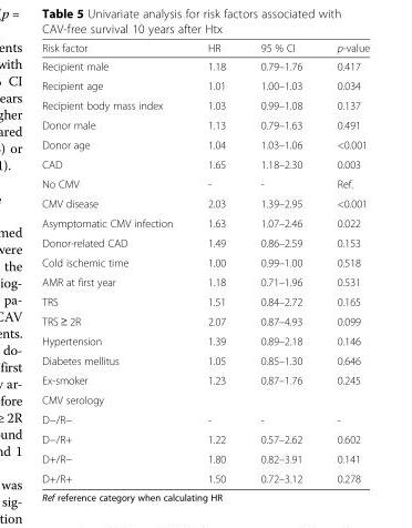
<table><thead><tr><td>Risk factor</td><td>HR</td><td>95 % CI</td><td>p-value</td></tr></thead><tbody><tr><td>Recipient male</td><td>1.18</td><td>0.79–1.76</td><td>0.417</td></tr><tr><td>Recipient age</td><td>1.01</td><td>1.00–1.03</td><td>0.034</td></tr><tr><td>Recipient body mass index</td><td>1.03</td><td>0.99–1.08</td><td>0.137</td></tr><tr><td>Donor male</td><td>1.13</td><td>0.79–1.63</td><td>0.491</td></tr><tr><td>Donor age</td><td>1.04</td><td>1.03–1.06</td><td>&lt;0.001</td></tr><tr><td>CAD</td><td>1.65</td><td>1.18–2.30</td><td>0.003</td></tr><tr><td>No CMV</td><td>-</td><td>-</td><td>Ref.</td></tr><tr><td>CMV disease</td><td>2.03</td><td>1.39–2.95</td><td>&lt;0.001</td></tr><tr><td>Asymptomatic CMV infection</td><td>1.63</td><td>1.07–2.46</td><td>0.022</td></tr><tr><td>Donor-related CAD</td><td>1.49</td><td>0.86–2.59</td><td>0.153</td></tr><tr><td>Cold ischemic time</td><td>1.00</td><td>0.99–1.00</td><td>0.518</td></tr><tr><td>AMR at first year</td><td>1.18</td><td>0.71–1.96</td><td>0.531</td></tr><tr><td>TRS</td><td>1.51</td><td>0.84–2.72</td><td>0.165</td></tr><tr><td>TRS ≥ 2R</td><td>2.07</td><td>0.87–4.93</td><td>0.099</td></tr><tr><td>Hypertension</td><td>1.39</td><td>0.89–2.18</td><td>0.146</td></tr><tr><td>Diabetes mellitus</td><td>1.05</td><td>0.85–1.30</td><td>0.646</td></tr><tr><td>Ex-smoker</td><td>1.23</td><td>0.87–1.76</td><td>0.245</td></tr><tr><td colspan="4">CMV serology</td></tr><tr><td>D−/R−</td><td>-</td><td>-</td><td>-</td></tr><tr><td>D−/R+</td><td>1.22</td><td>0.57–2.62</td><td>0.602</td></tr><tr><td>D+/R−</td><td>1.80</td><td>0.82–3.91</td><td>0.141</td></tr><tr><td>D+/R+</td><td>1.50</td><td>0.72–3.12</td><td>0.278</td></tr></tbody></table>